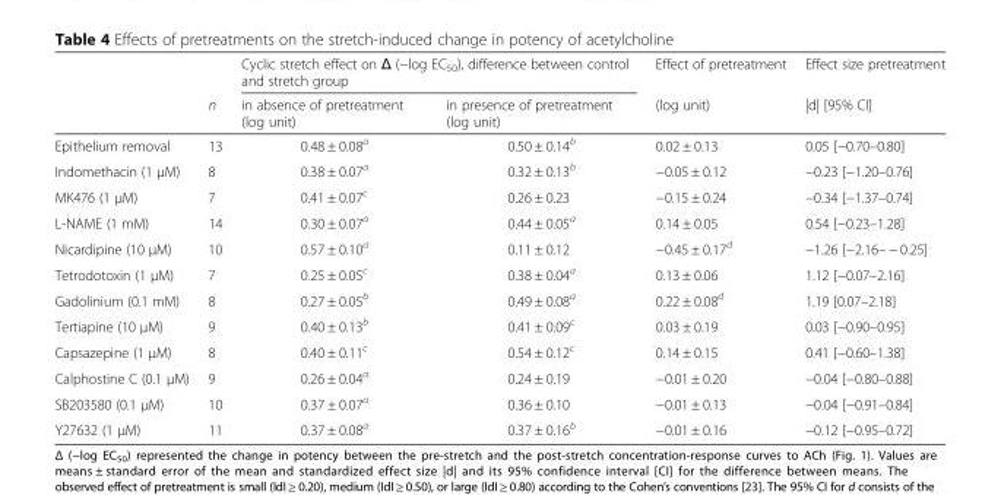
<table><thead><tr><td rowspan="2"></td><td rowspan="2">n</td><td colspan="2">Cyclic stretch effect on Δ (−log EC<sub>50</sub>), difference between control and stretch group</td><td rowspan="2">Effect of pretreatment (log unit)</td><td rowspan="2">Effect size pretreatment |d| [95% CI]</td></tr><tr><td>in absence of pretreatment (log unit)</td><td>in presence of pretreatment (log unit)</td></tr></thead><tbody><tr><td>Epithelium removal</td><td>13</td><td>0.48 ± 0.08<sup>a</sup></td><td>0.50 ± 0.14<sup>b</sup></td><td>0.02 ± 0.13</td><td>0.05 [−0.70–0.80]</td></tr><tr><td>Indomethacin (1 μM)</td><td>8</td><td>0.38 ± 0.07<sup>a</sup></td><td>0.32 ± 0.13<sup>b</sup></td><td>−0.05 ± 0.12</td><td>−0.23 [−1.20–0.76]</td></tr><tr><td>MK476 (1 μM)</td><td>7</td><td>0.41 ± 0.07<sup>c</sup></td><td>0.26 ± 0.23</td><td>−0.15 ± 0.24</td><td>−0.34 [−1.37–0.74]</td></tr><tr><td>L-NAME (1 mM)</td><td>14</td><td>0.30 ± 0.07<sup>a</sup></td><td>0.44 ± 0.05<sup>a</sup></td><td>0.14 ± 0.05</td><td>0.54 [−0.23–1.28]</td></tr><tr><td>Nicardipine (10 μM)</td><td>10</td><td>0.57 ± 0.10<sup>a</sup></td><td>0.11 ± 0.12</td><td>−0.45 ± 0.17<sup>d</sup></td><td>−1.26 [−2.16– − 0.25]</td></tr><tr><td>Tetrodotoxin (1 μM)</td><td>7</td><td>0.25 ± 0.05<sup>c</sup></td><td>0.38 ± 0.04<sup>a</sup></td><td>0.13 ± 0.06</td><td>1.12 [−0.07–2.16]</td></tr><tr><td>Gadolinium (0.1 mM)</td><td>8</td><td>0.27 ± 0.05<sup>b</sup></td><td>0.49 ± 0.08<sup>a</sup></td><td>0.22 ± 0.08<sup>d</sup></td><td>1.19 [0.07–2.18]</td></tr><tr><td>Tertiapine (10 μM)</td><td>9</td><td>0.40 ± 0.13<sup>b</sup></td><td>0.41 ± 0.09<sup>c</sup></td><td>0.03 ± 0.19</td><td>0.03 [−0.90–0.95]</td></tr><tr><td>Capsazepine (1 μM)</td><td>8</td><td>0.40 ± 0.11<sup>c</sup></td><td>0.54 ± 0.12<sup>c</sup></td><td>0.14 ± 0.15</td><td>0.41 [−0.60–1.38]</td></tr><tr><td>Calphostine C (0.1 μM)</td><td>9</td><td>0.26 ± 0.04<sup>a</sup></td><td>0.24 ± 0.19</td><td>−0.01 ± 0.20</td><td>−0.04 [−0.80–0.88]</td></tr><tr><td>SB203580 (0.1 μM)</td><td>10</td><td>0.37 ± 0.07<sup>a</sup></td><td>0.36 ± 0.10</td><td>−0.01 ± 0.13</td><td>−0.04 [−0.91–0.84]</td></tr><tr><td>Y27632 (1 μM)</td><td>11</td><td>0.37 ± 0.08<sup>a</sup></td><td>0.37 ± 0.16<sup>b</sup></td><td>−0.01 ± 0.16</td><td>−0.12 [−0.95–0.72]</td></tr></tbody></table>